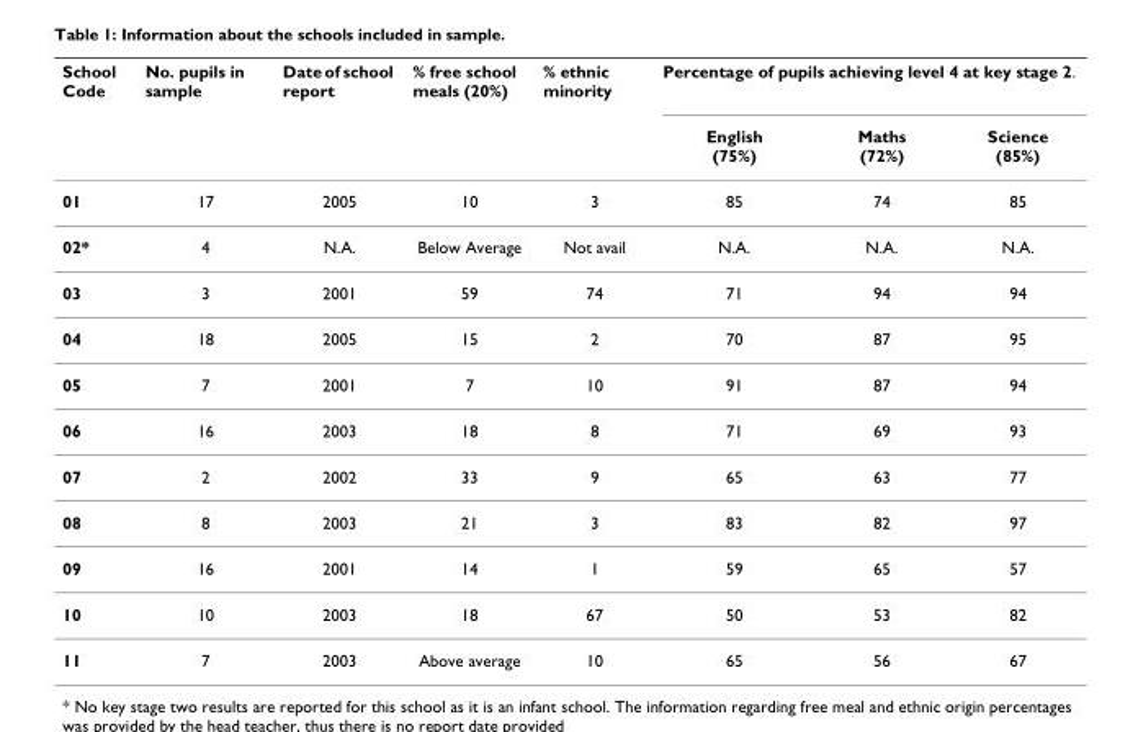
<table><thead><tr><td rowspan="2">School Code</td><td rowspan="2">No. pupils in sample</td><td rowspan="2">Date of school report</td><td rowspan="2">% free school meals (20%)</td><td rowspan="2">% ethnic minority</td><td colspan="3">Percentage of pupils achieving level 4 at key stage 2.</td></tr><tr><td>English (75%)</td><td>Maths (72%)</td><td>Science (85%)</td></tr></thead><tbody><tr><td>01</td><td>17</td><td>2005</td><td>10</td><td>3</td><td>85</td><td>74</td><td>85</td></tr><tr><td>02*</td><td>4</td><td>N.A.</td><td>Below Average</td><td>Not avail</td><td>N.A.</td><td>N.A.</td><td>N.A.</td></tr><tr><td>03</td><td>3</td><td>2001</td><td>59</td><td>74</td><td>71</td><td>94</td><td>94</td></tr><tr><td>04</td><td>18</td><td>2005</td><td>15</td><td>2</td><td>70</td><td>87</td><td>95</td></tr><tr><td>05</td><td>7</td><td>2001</td><td>7</td><td>10</td><td>91</td><td>87</td><td>94</td></tr><tr><td>06</td><td>16</td><td>2003</td><td>18</td><td>8</td><td>71</td><td>69</td><td>93</td></tr><tr><td>07</td><td>2</td><td>2002</td><td>33</td><td>9</td><td>65</td><td>63</td><td>77</td></tr><tr><td>08</td><td>8</td><td>2003</td><td>21</td><td>3</td><td>83</td><td>82</td><td>97</td></tr><tr><td>09</td><td>16</td><td>2001</td><td>14</td><td>1</td><td>59</td><td>65</td><td>57</td></tr><tr><td>10</td><td>10</td><td>2003</td><td>18</td><td>67</td><td>50</td><td>53</td><td>82</td></tr><tr><td>11</td><td>7</td><td>2003</td><td>Above average</td><td>10</td><td>65</td><td>56</td><td>67</td></tr></tbody></table>